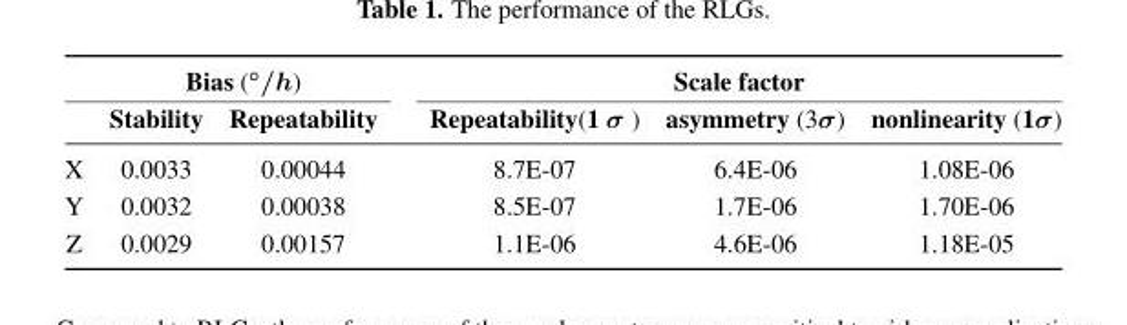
<table><thead><tr><td colspan="3">Bias (◦/h)</td><td colspan="3">Scale factor</td></tr><tr><td></td><td>Stability</td><td>Repeatability</td><td>Repeatability(1 σ )</td><td>asymmetry (3σ)</td><td>nonlinearity (1σ)</td></tr></thead><tbody><tr><td>X</td><td>0.0033</td><td>0.00044</td><td>8.7E-07</td><td>6.4E-06</td><td>1.08E-06</td></tr><tr><td>Y</td><td>0.0032</td><td>0.00038</td><td>8.5E-07</td><td>1.7E-06</td><td>1.70E-06</td></tr><tr><td>Z</td><td>0.0029</td><td>0.00157</td><td>1.1E-06</td><td>4.6E-06</td><td>1.18E-05</td></tr></tbody></table>